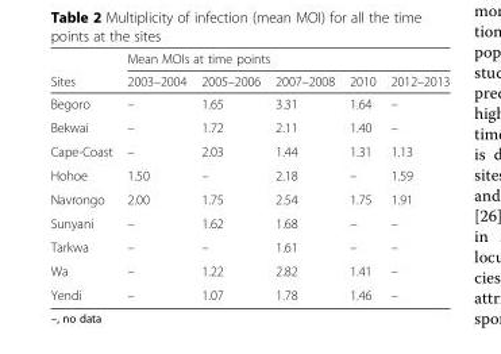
<table><thead><tr><td rowspan="2">Sites</td><td colspan="5">Mean MOIs at time points</td></tr><tr><td>2003–2004</td><td>2005–2006</td><td>2007–2008</td><td>2010</td><td>2012–2013</td></tr></thead><tbody><tr><td>Begoro</td><td>–</td><td>1.65</td><td>3.31</td><td>1.64</td><td>–</td></tr><tr><td>Bekwai</td><td>–</td><td>1.72</td><td>2.11</td><td>1.40</td><td>–</td></tr><tr><td>Cape-Coast</td><td>–</td><td>2.03</td><td>1.44</td><td>1.31</td><td>1.13</td></tr><tr><td>Hohoe</td><td>1.50</td><td>–</td><td>2.18</td><td>–</td><td>1.59</td></tr><tr><td>Navrongo</td><td>2.00</td><td>1.75</td><td>2.54</td><td>1.75</td><td>1.91</td></tr><tr><td>Sunyani</td><td>–</td><td>1.62</td><td>1.68</td><td>–</td><td>–</td></tr><tr><td>Tarkwa</td><td>–</td><td>–</td><td>1.61</td><td>–</td><td>–</td></tr><tr><td>Wa</td><td>–</td><td>1.22</td><td>2.82</td><td>1.41</td><td>–</td></tr><tr><td>Yendi</td><td>–</td><td>1.07</td><td>1.78</td><td>1.46</td><td>–</td></tr></tbody></table>